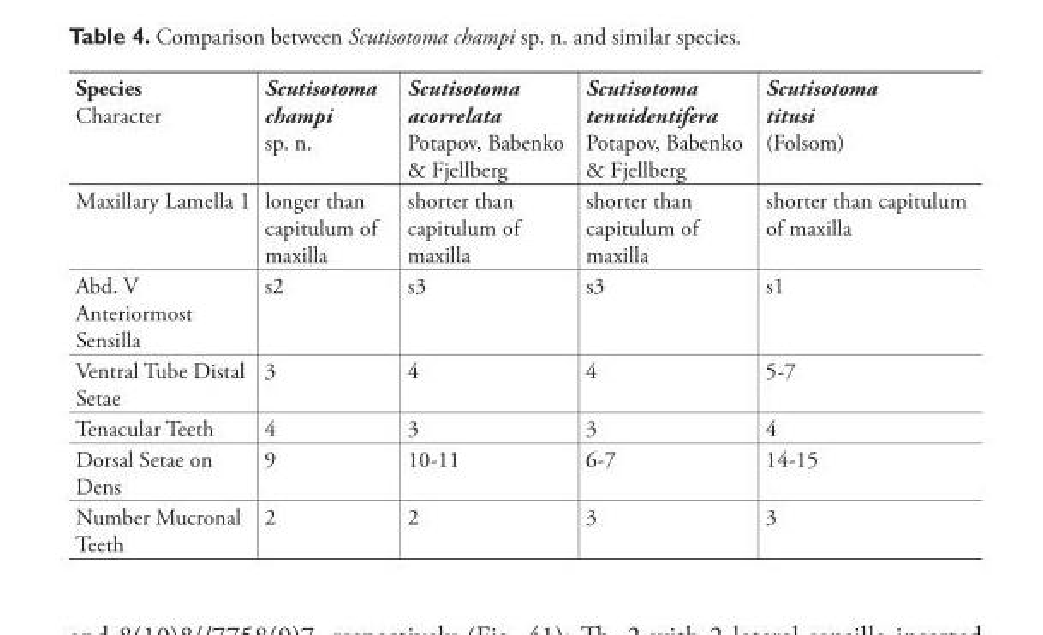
<table><thead><tr><td>Species Character</td><td>Scutisotoma champi sp. n.</td><td>Scutisotoma acorrelata Potapov, Babenko &amp; Fjellberg</td><td>Scutisotoma tenuidentifera Potapov, Babenko &amp; Fjellberg</td><td>Scutisotoma titusi (Folsom)</td></tr></thead><tbody><tr><td>Maxillary Lamella 1</td><td>longer than capitulum of maxilla</td><td>shorter than capitulum of maxilla</td><td>shorter than capitulum of maxilla</td><td>shorter than capitulum of maxilla</td></tr><tr><td>Abd. V Anteriormost Sensilla</td><td>s2</td><td>s3</td><td>s3</td><td>s1</td></tr><tr><td>Ventral Tube Distal Setae</td><td>3</td><td>4</td><td>4</td><td>5-7</td></tr><tr><td>Tenacular Teeth</td><td>4</td><td>3</td><td>3</td><td>4</td></tr><tr><td>Dorsal Setae on Dens</td><td>9</td><td>10-11</td><td>6-7</td><td>14-15</td></tr><tr><td>Number Mucronal Teeth</td><td>2</td><td>2</td><td>3</td><td>3</td></tr></tbody></table>